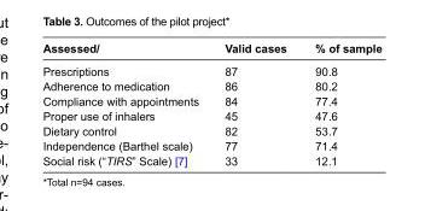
<table><thead><tr><td>Assessed/</td><td>Valid cases</td><td>% of sample</td></tr></thead><tbody><tr><td>Prescriptions</td><td>87</td><td>90.8</td></tr><tr><td>Adherence to medication</td><td>86</td><td>80.2</td></tr><tr><td>Compliance with appointments</td><td>84</td><td>77.4</td></tr><tr><td>Proper use of inhalers</td><td>45</td><td>47.6</td></tr><tr><td>Dietary control</td><td>82</td><td>53.7</td></tr><tr><td>Independence (Barthel scale)</td><td>77</td><td>71.4</td></tr><tr><td>Social risk (“TIRS” Scale) [7]</td><td>33</td><td>12.1</td></tr></tbody></table>